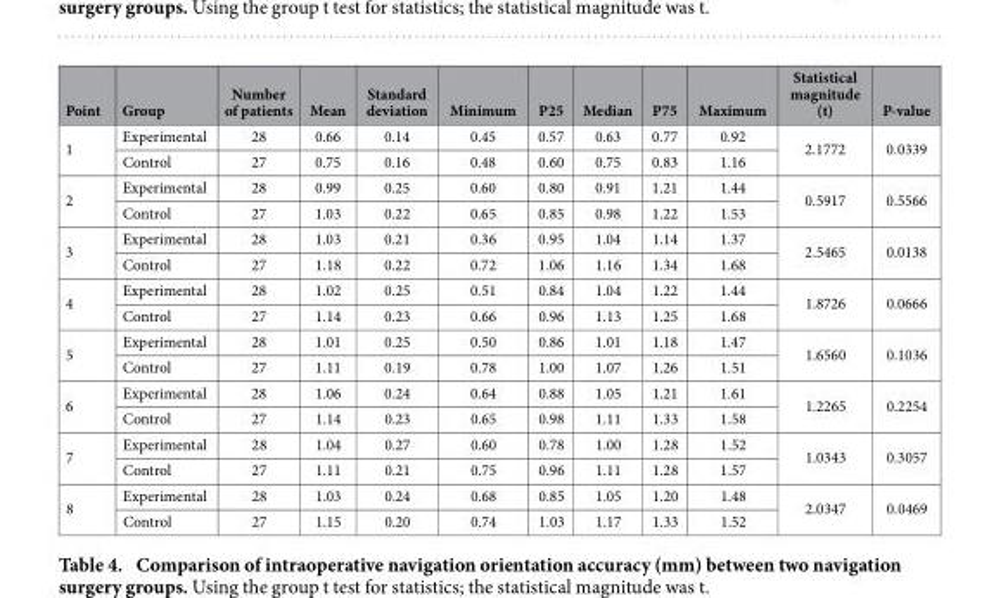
<table><thead><tr><td>Point</td><td>Group</td><td>Number of patients</td><td>Mean</td><td>Standard deviation</td><td>Minimum</td><td>P25</td><td>Median</td><td>P75</td><td>Maximum</td><td>Statistical magnitude (t)</td><td>P-value</td></tr></thead><tbody><tr><td rowspan="2">1</td><td>Experimental</td><td>28</td><td>0.66</td><td>0.14</td><td>0.45</td><td>0.57</td><td>0.63</td><td>0.77</td><td>0.92</td><td rowspan="2">2.1772</td><td rowspan="2">0.0339</td></tr><tr><td>Control</td><td>27</td><td>0.75</td><td>0.16</td><td>0.48</td><td>0.60</td><td>0.75</td><td>0.83</td><td>1.16</td></tr><tr><td rowspan="2">2</td><td>Experimental</td><td>28</td><td>0.99</td><td>0.25</td><td>0.60</td><td>0.80</td><td>0.91</td><td>1.21</td><td>1.44</td><td rowspan="2">0.5917</td><td rowspan="2">0.5566</td></tr><tr><td>Control</td><td>27</td><td>1.03</td><td>0.22</td><td>0.65</td><td>0.85</td><td>0.98</td><td>1.22</td><td>1.53</td></tr><tr><td rowspan="2">3</td><td>Experimental</td><td>28</td><td>1.03</td><td>0.21</td><td>0.36</td><td>0.95</td><td>1.04</td><td>1.14</td><td>1.37</td><td rowspan="2">2.5465</td><td rowspan="2">0.0138</td></tr><tr><td>Control</td><td>27</td><td>1.18</td><td>0.22</td><td>0.72</td><td>1.06</td><td>1.16</td><td>1.34</td><td>1.68</td></tr><tr><td rowspan="2">4</td><td>Experimental</td><td>28</td><td>1.02</td><td>0.25</td><td>0.51</td><td>0.84</td><td>1.04</td><td>1.22</td><td>1.44</td><td rowspan="2">1.8726</td><td rowspan="2">0.0666</td></tr><tr><td>Control</td><td>27</td><td>1.14</td><td>0.23</td><td>0.66</td><td>0.96</td><td>1.13</td><td>1.25</td><td>1.68</td></tr><tr><td rowspan="2">5</td><td>Experimental</td><td>28</td><td>1.01</td><td>0.25</td><td>0.50</td><td>0.86</td><td>1.01</td><td>1.18</td><td>1.47</td><td rowspan="2">1.6560</td><td rowspan="2">0.1036</td></tr><tr><td>Control</td><td>27</td><td>1.11</td><td>0.19</td><td>0.78</td><td>1.00</td><td>1.07</td><td>1.26</td><td>1.51</td></tr><tr><td rowspan="2">6</td><td>Experimental</td><td>28</td><td>1.06</td><td>0.24</td><td>0.64</td><td>0.88</td><td>1.05</td><td>1.21</td><td>1.61</td><td rowspan="2">1.2265</td><td rowspan="2">0.2254</td></tr><tr><td>Control</td><td>27</td><td>1.14</td><td>0.23</td><td>0.65</td><td>0.98</td><td>1.11</td><td>1.33</td><td>1.58</td></tr><tr><td rowspan="2">7</td><td>Experimental</td><td>28</td><td>1.04</td><td>0.27</td><td>0.60</td><td>0.78</td><td>1.00</td><td>1.28</td><td>1.52</td><td rowspan="2">1.0343</td><td rowspan="2">0.3057</td></tr><tr><td>Control</td><td>27</td><td>1.11</td><td>0.21</td><td>0.75</td><td>0.96</td><td>1.11</td><td>1.28</td><td>1.57</td></tr><tr><td rowspan="2">8</td><td>Experimental</td><td>28</td><td>1.03</td><td>0.24</td><td>0.68</td><td>0.85</td><td>1.05</td><td>1.20</td><td>1.48</td><td rowspan="2">2.0347</td><td rowspan="2">0.0469</td></tr><tr><td>Control</td><td>27</td><td>1.15</td><td>0.20</td><td>0.74</td><td>1.03</td><td>1.17</td><td>1.33</td><td>1.52</td></tr></tbody></table>